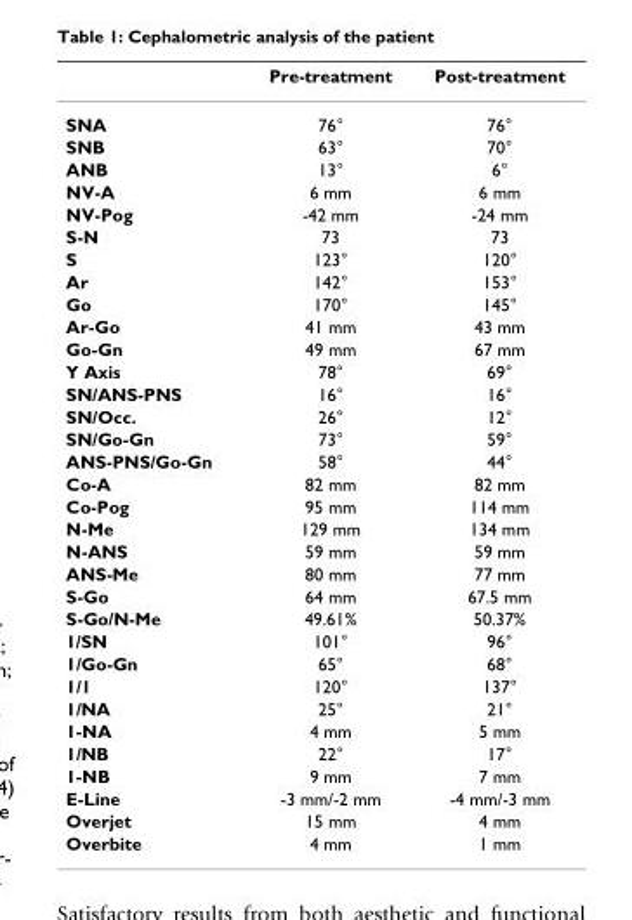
<table><thead><tr><td></td><td>Pre-treatment</td><td>Post-treatment</td></tr></thead><tbody><tr><td>SNA</td><td>76°</td><td>76°</td></tr><tr><td>SNB</td><td>63°</td><td>70°</td></tr><tr><td>ANB</td><td>13°</td><td>6°</td></tr><tr><td>NV-A</td><td>6 mm</td><td>6 mm</td></tr><tr><td>NV-Pog</td><td>-42 mm</td><td>-24 mm</td></tr><tr><td>S-N</td><td>73</td><td>73</td></tr><tr><td>S</td><td>123°</td><td>120°</td></tr><tr><td>Ar</td><td>142°</td><td>153°</td></tr><tr><td>Go</td><td>170°</td><td>145°</td></tr><tr><td>Ar-Go</td><td>41 mm</td><td>43 mm</td></tr><tr><td>Go-Gn</td><td>49 mm</td><td>67 mm</td></tr><tr><td>Y Axis</td><td>78°</td><td>69°</td></tr><tr><td>SN/ANS-PNS</td><td>16°</td><td>16°</td></tr><tr><td>SN/Occ.</td><td>26°</td><td>12°</td></tr><tr><td>SN/Go-Gn</td><td>73°</td><td>59°</td></tr><tr><td>ANS-PNS/Go-Gn</td><td>58°</td><td>44°</td></tr><tr><td>Co-A</td><td>82 mm</td><td>82 mm</td></tr><tr><td>Co-Pog</td><td>95 mm</td><td>114 mm</td></tr><tr><td>N-Me</td><td>129 mm</td><td>134 mm</td></tr><tr><td>N-ANS</td><td>59 mm</td><td>59 mm</td></tr><tr><td>ANS-Me</td><td>80 mm</td><td>77 mm</td></tr><tr><td>S-Go</td><td>64 mm</td><td>67.5 mm</td></tr><tr><td>S-Go/N-Me</td><td>49.61%</td><td>50.37%</td></tr><tr><td>1/SN</td><td>101°</td><td>96°</td></tr><tr><td>1/Go-Gn</td><td>65°</td><td>68°</td></tr><tr><td>1/1</td><td>120°</td><td>137°</td></tr><tr><td>1/NA</td><td>25°</td><td>21°</td></tr><tr><td>1-NA</td><td>4 mm</td><td>5 mm</td></tr><tr><td>1/NB</td><td>22°</td><td>17°</td></tr><tr><td>1-NB</td><td>9 mm</td><td>7 mm</td></tr><tr><td>E-Line</td><td>-3 mm/-2 mm</td><td>-4 mm/-3 mm</td></tr><tr><td>Overjet</td><td>15 mm</td><td>4 mm</td></tr><tr><td>Overbite</td><td>4 mm</td><td>1 mm</td></tr></tbody></table>